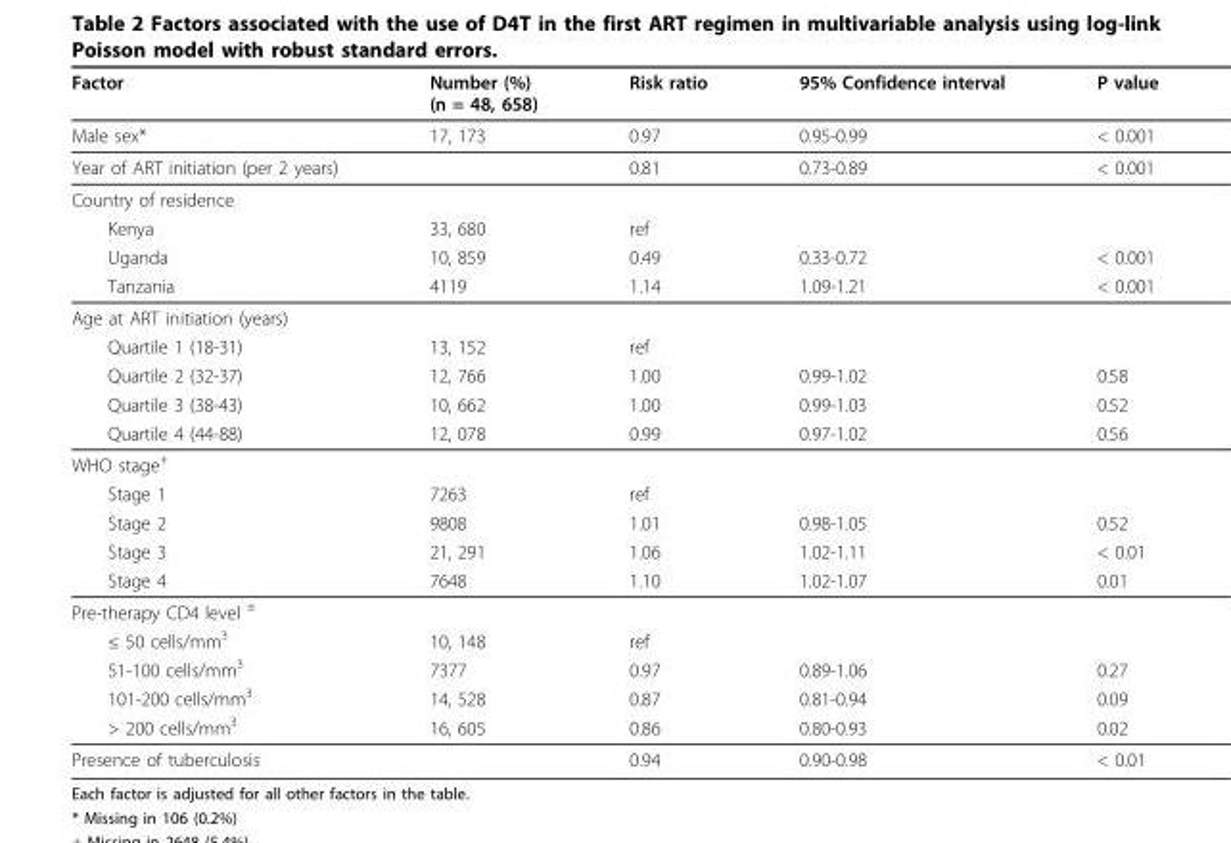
<table><thead><tr><td>Factor</td><td>Number (%) (n = 48, 658)</td><td>Risk ratio</td><td>95% Confidence interval</td><td>P value</td></tr></thead><tbody><tr><td>Male sex*</td><td>17, 173</td><td>0.97</td><td>0.95-0.99</td><td>&lt; 0.001</td></tr><tr><td>Year of ART initiation (per 2 years)</td><td></td><td>0.81</td><td>0.73-0.89</td><td>&lt; 0.001</td></tr><tr><td colspan="5">Country of residence</td></tr><tr><td>Kenya</td><td>33, 680</td><td>ref</td><td></td><td></td></tr><tr><td>Uganda</td><td>10, 859</td><td>0.49</td><td>0.33-0.72</td><td>&lt; 0.001</td></tr><tr><td>Tanzania</td><td>4119</td><td>1.14</td><td>1.09-1.21</td><td>&lt; 0.001</td></tr><tr><td colspan="5">Age at ART initiation (years)</td></tr><tr><td>Quartile 1 (18-31)</td><td>13, 152</td><td>ref</td><td></td><td></td></tr><tr><td>Quartile 2 (32-37)</td><td>12, 766</td><td>1.00</td><td>0.99-1.02</td><td>0.58</td></tr><tr><td>Quartile 3 (38-43)</td><td>10, 662</td><td>1.00</td><td>0.99-1.03</td><td>0.52</td></tr><tr><td>Quartile 4 (44-88)</td><td>12, 078</td><td>0.99</td><td>0.97-1.02</td><td>0.56</td></tr><tr><td colspan="5">WHO stage<sup>+</sup></td></tr><tr><td>Stage 1</td><td>7263</td><td>ref</td><td></td><td></td></tr><tr><td>Stage 2</td><td>9808</td><td>1.01</td><td>0.98-1.05</td><td>0.52</td></tr><tr><td>Stage 3</td><td>21, 291</td><td>1.06</td><td>1.02-1.11</td><td>&lt; 0.01</td></tr><tr><td>Stage 4</td><td>7648</td><td>1.10</td><td>1.02-1.07</td><td>0.01</td></tr><tr><td colspan="5">Pre-therapy CD4 level <sup>±</sup></td></tr><tr><td>≤ 50 cells/mm<sup>3</sup></td><td>10, 148</td><td>ref</td><td></td><td></td></tr><tr><td>51-100 cells/mm<sup>3</sup></td><td>7377</td><td>0.97</td><td>0.89-1.06</td><td>0.27</td></tr><tr><td>101-200 cells/mm<sup>3</sup></td><td>14, 528</td><td>0.87</td><td>0.81-0.94</td><td>0.09</td></tr><tr><td>&gt; 200 cells/mm<sup>3</sup></td><td>16, 605</td><td>0.86</td><td>0.80-0.93</td><td>0.02</td></tr><tr><td>Presence of tuberculosis</td><td></td><td>0.94</td><td>0.90-0.98</td><td>&lt; 0.01</td></tr></tbody></table>